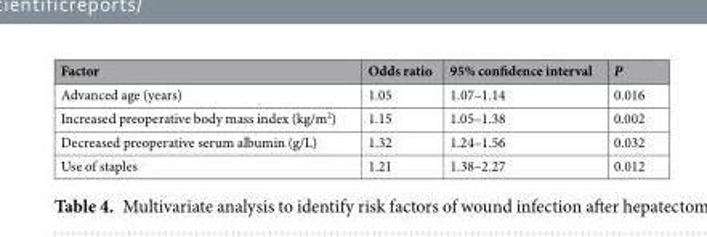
<table><thead><tr><td>Factor</td><td>Odds ratio</td><td>95% confidence interval</td><td>P</td></tr></thead><tbody><tr><td>Advanced age (years)</td><td>1.05</td><td>1.07–1.14</td><td>0.016</td></tr><tr><td>Increased preoperative body mass index (kg/m<sup>2</sup>)</td><td>1.15</td><td>1.05–1.38</td><td>0.002</td></tr><tr><td>Decreased preoperative serum albumin (g/L)</td><td>1.32</td><td>1.24–1.56</td><td>0.032</td></tr><tr><td>Use of staples</td><td>1.21</td><td>1.38–2.27</td><td>0.012</td></tr></tbody></table>